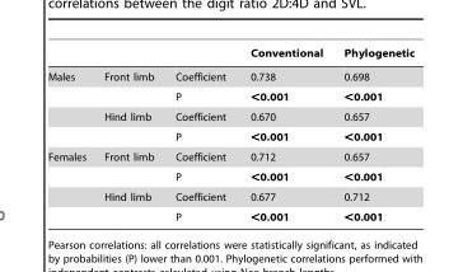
<table><thead><tr><td></td><td></td><td></td><td>Conventional</td><td>Phylogenetic</td></tr></thead><tbody><tr><td rowspan="4">Males</td><td>Front limb</td><td>Coefficient</td><td>0.738</td><td>0.698</td></tr><tr><td></td><td>P</td><td>&lt;0.001</td><td>&lt;0.001</td></tr><tr><td>Hind limb</td><td>Coefficient</td><td>0.670</td><td>0.657</td></tr><tr><td></td><td>P</td><td>&lt;0.001</td><td>&lt;0.001</td></tr><tr><td rowspan="4">Females</td><td>Front limb</td><td>Coefficient</td><td>0.712</td><td>0.657</td></tr><tr><td></td><td>P</td><td>&lt;0.001</td><td>&lt;0.001</td></tr><tr><td>Hind limb</td><td>Coefficient</td><td>0.677</td><td>0.712</td></tr><tr><td></td><td>P</td><td>&lt;0.001</td><td>&lt;0.001</td></tr></tbody></table>